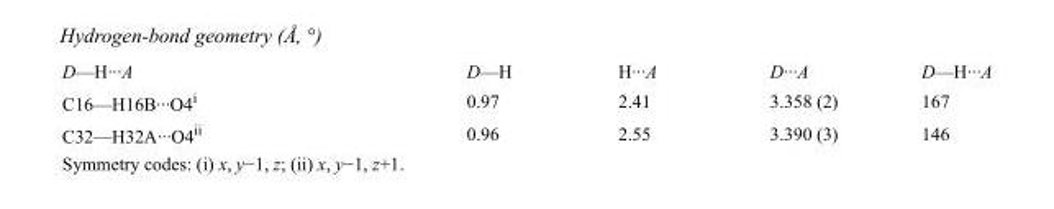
<table><tbody><tr><td>D—H···A</td><td>D—H</td><td>H···A</td><td>D···A</td><td>D—H···A</td></tr><tr><td>C16—H16B···O4<sup>i</sup></td><td>0.97</td><td>2.41</td><td>3.358 (2)</td><td>167</td></tr><tr><td>C32—H32A···O4<sup>ii</sup></td><td>0.96</td><td>2.55</td><td>3.390 (3)</td><td>146</td></tr></tbody></table>